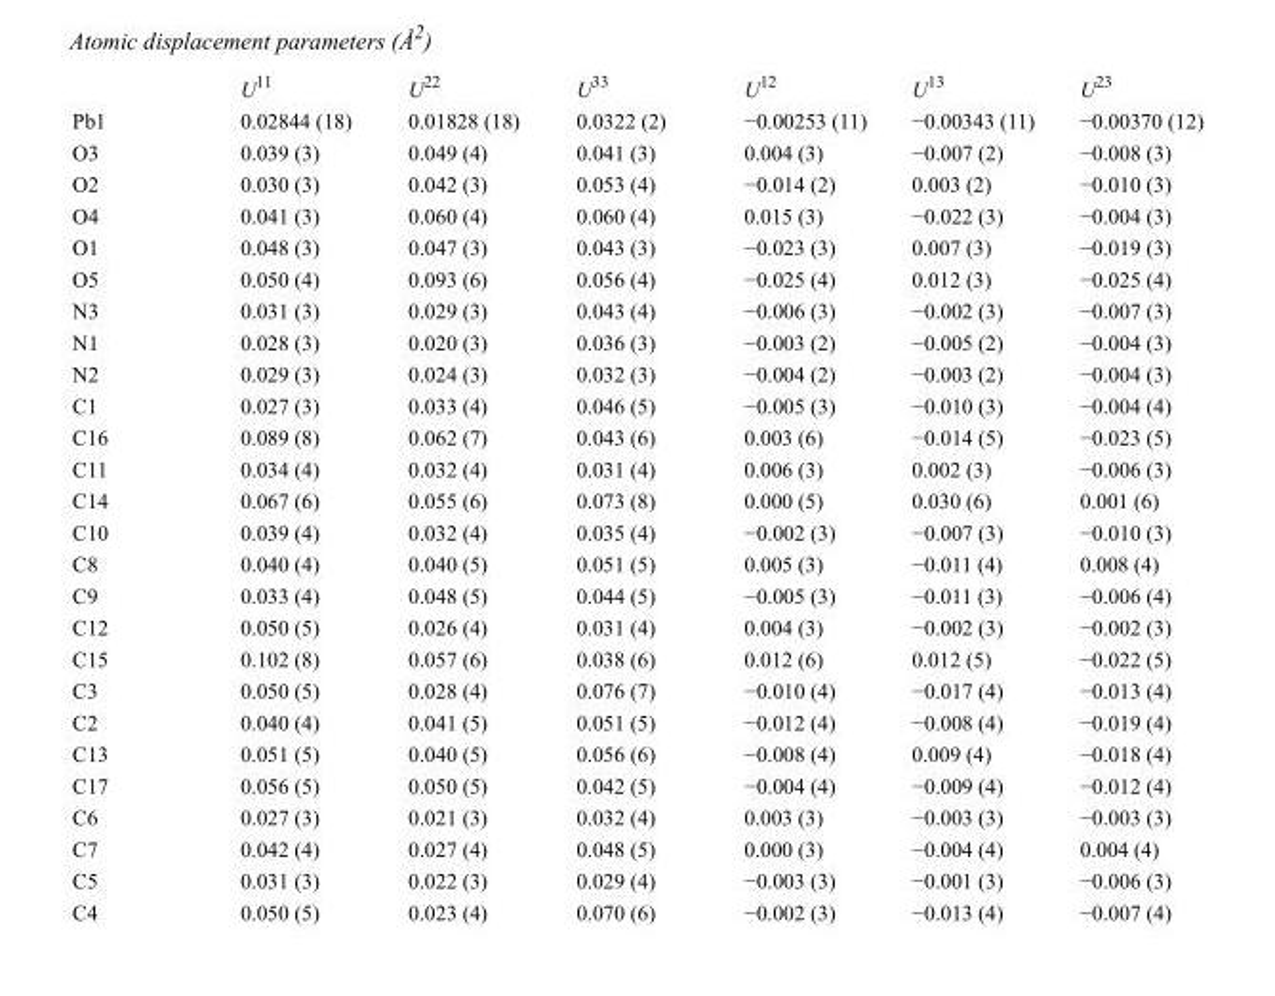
<table><thead><tr><td></td><td>U<sup>11</sup></td><td>U<sup>22</sup></td><td>U<sup>33</sup></td><td>U<sup>12</sup></td><td>U<sup>13</sup></td><td>U<sup>23</sup></td></tr></thead><tbody><tr><td>Pb1</td><td>0.02844 (18)</td><td>0.01828 (18)</td><td>0.0322 (2)</td><td>−0.00253 (11)</td><td>−0.00343 (11)</td><td>−0.00370 (12)</td></tr><tr><td>O3</td><td>0.039 (3)</td><td>0.049 (4)</td><td>0.041 (3)</td><td>0.004 (3)</td><td>−0.007 (2)</td><td>−0.008 (3)</td></tr><tr><td>O2</td><td>0.030 (3)</td><td>0.042 (3)</td><td>0.053 (4)</td><td>−0.014 (2)</td><td>0.003 (2)</td><td>−0.010 (3)</td></tr><tr><td>O4</td><td>0.041 (3)</td><td>0.060 (4)</td><td>0.060 (4)</td><td>0.015 (3)</td><td>−0.022 (3)</td><td>−0.004 (3)</td></tr><tr><td>O1</td><td>0.048 (3)</td><td>0.047 (3)</td><td>0.043 (3)</td><td>−0.023 (3)</td><td>0.007 (3)</td><td>−0.019 (3)</td></tr><tr><td>O5</td><td>0.050 (4)</td><td>0.093 (6)</td><td>0.056 (4)</td><td>−0.025 (4)</td><td>0.012 (3)</td><td>−0.025 (4)</td></tr><tr><td>N3</td><td>0.031 (3)</td><td>0.029 (3)</td><td>0.043 (4)</td><td>−0.006 (3)</td><td>−0.002 (3)</td><td>−0.007 (3)</td></tr><tr><td>N1</td><td>0.028 (3)</td><td>0.020 (3)</td><td>0.036 (3)</td><td>−0.003 (2)</td><td>−0.005 (2)</td><td>−0.004 (3)</td></tr><tr><td>N2</td><td>0.029 (3)</td><td>0.024 (3)</td><td>0.032 (3)</td><td>−0.004 (2)</td><td>−0.003 (2)</td><td>−0.004 (3)</td></tr><tr><td>C1</td><td>0.027 (3)</td><td>0.033 (4)</td><td>0.046 (5)</td><td>−0.005 (3)</td><td>−0.010 (3)</td><td>−0.004 (4)</td></tr><tr><td>C16</td><td>0.089 (8)</td><td>0.062 (7)</td><td>0.043 (6)</td><td>0.003 (6)</td><td>−0.014 (5)</td><td>−0.023 (5)</td></tr><tr><td>C11</td><td>0.034 (4)</td><td>0.032 (4)</td><td>0.031 (4)</td><td>0.006 (3)</td><td>0.002 (3)</td><td>−0.006 (3)</td></tr><tr><td>C14</td><td>0.067 (6)</td><td>0.055 (6)</td><td>0.073 (8)</td><td>0.000 (5)</td><td>0.030 (6)</td><td>0.001 (6)</td></tr><tr><td>C10</td><td>0.039 (4)</td><td>0.032 (4)</td><td>0.035 (4)</td><td>−0.002 (3)</td><td>−0.007 (3)</td><td>−0.010 (3)</td></tr><tr><td>C8</td><td>0.040 (4)</td><td>0.040 (5)</td><td>0.051 (5)</td><td>0.005 (3)</td><td>−0.011 (4)</td><td>0.008 (4)</td></tr><tr><td>C9</td><td>0.033 (4)</td><td>0.048 (5)</td><td>0.044 (5)</td><td>−0.005 (3)</td><td>−0.011 (3)</td><td>−0.006 (4)</td></tr><tr><td>C12</td><td>0.050 (5)</td><td>0.026 (4)</td><td>0.031 (4)</td><td>0.004 (3)</td><td>−0.002 (3)</td><td>−0.002 (3)</td></tr><tr><td>C15</td><td>0.102 (8)</td><td>0.057 (6)</td><td>0.038 (6)</td><td>0.012 (6)</td><td>0.012 (5)</td><td>−0.022 (5)</td></tr><tr><td>C3</td><td>0.050 (5)</td><td>0.028 (4)</td><td>0.076 (7)</td><td>−0.010 (4)</td><td>−0.017 (4)</td><td>−0.013 (4)</td></tr><tr><td>C2</td><td>0.040 (4)</td><td>0.041 (5)</td><td>0.051 (5)</td><td>−0.012 (4)</td><td>−0.008 (4)</td><td>−0.019 (4)</td></tr><tr><td>C13</td><td>0.051 (5)</td><td>0.040 (5)</td><td>0.056 (6)</td><td>−0.008 (4)</td><td>0.009 (4)</td><td>−0.018 (4)</td></tr><tr><td>C17</td><td>0.056 (5)</td><td>0.050 (5)</td><td>0.042 (5)</td><td>−0.004 (4)</td><td>−0.009 (4)</td><td>−0.012 (4)</td></tr><tr><td>C6</td><td>0.027 (3)</td><td>0.021 (3)</td><td>0.032 (4)</td><td>0.003 (3)</td><td>−0.003 (3)</td><td>−0.003 (3)</td></tr><tr><td>C7</td><td>0.042 (4)</td><td>0.027 (4)</td><td>0.048 (5)</td><td>0.000 (3)</td><td>−0.004 (4)</td><td>0.004 (4)</td></tr><tr><td>C5</td><td>0.031 (3)</td><td>0.022 (3)</td><td>0.029 (4)</td><td>−0.003 (3)</td><td>−0.001 (3)</td><td>−0.006 (3)</td></tr><tr><td>C4</td><td>0.050 (5)</td><td>0.023 (4)</td><td>0.070 (6)</td><td>−0.002 (3)</td><td>−0.013 (4)</td><td>−0.007 (4)</td></tr></tbody></table>